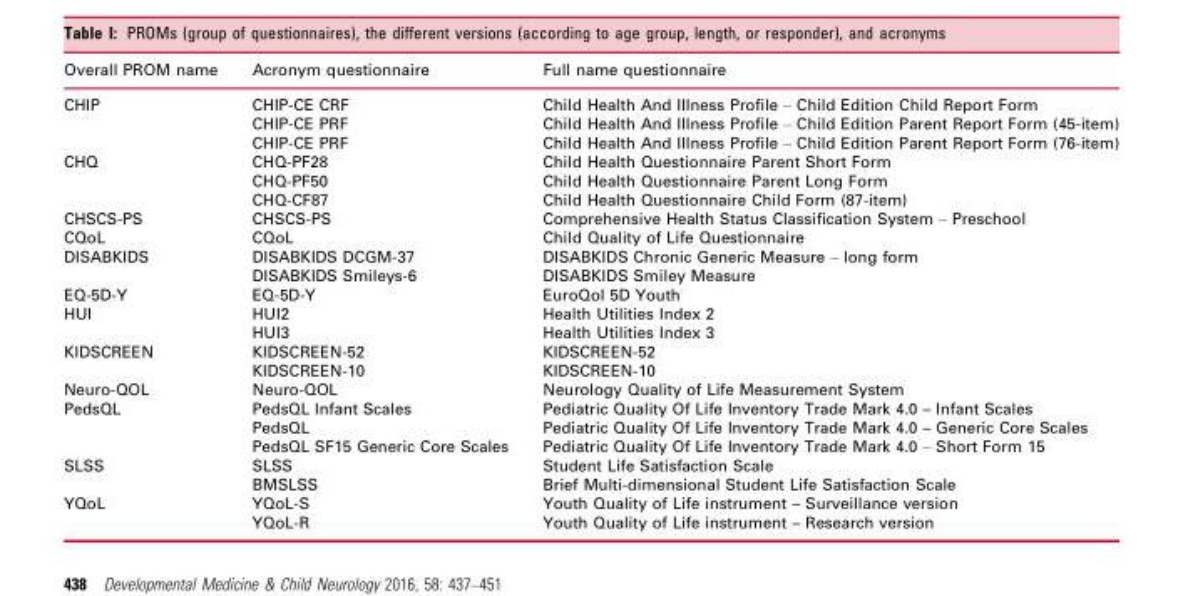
<table><thead><tr><td>Overall PROM name</td><td>Acronym questionnaire</td><td>Full name questionnaire</td></tr></thead><tbody><tr><td rowspan="3">CHIP</td><td>CHIP-CE CRF</td><td>Child Health And Illness Profile – Child Edition Child Report Form</td></tr><tr><td>CHIP-CE PRF</td><td>Child Health And Illness Profile – Child Edition Parent Report Form (45-item)</td></tr><tr><td>CHIP-CE PRF</td><td>Child Health And Illness Profile – Child Edition Parent Report Form (76-item)</td></tr><tr><td rowspan="3">CHQ</td><td>CHQ-PF28</td><td>Child Health Questionnaire Parent Short Form</td></tr><tr><td>CHQ-PF50</td><td>Child Health Questionnaire Parent Long Form</td></tr><tr><td>CHQ-CF87</td><td>Child Health Questionnaire Child Form (87-item)</td></tr><tr><td>CHSCS-PS</td><td>CHSCS-PS</td><td>Comprehensive Health Status Classification System – Preschool</td></tr><tr><td>CQoL</td><td>CQoL</td><td>Child Quality of Life Questionnaire</td></tr><tr><td rowspan="2">DISABKIDS</td><td>DISABKIDS DCGM-37</td><td>DISABKIDS Chronic Generic Measure – long form</td></tr><tr><td>DISABKIDS Smileys-6</td><td>DISABKIDS Smiley Measure</td></tr><tr><td>EQ-5D-Y</td><td>EQ-5D-Y</td><td>EuroQol 5D Youth</td></tr><tr><td rowspan="2">HUI</td><td>HUI2</td><td>Health Utilities Index 2</td></tr><tr><td>HUI3</td><td>Health Utilities Index 3</td></tr><tr><td rowspan="2">KIDSCREEN</td><td>KIDSCREEN-52</td><td>KIDSCREEN-52</td></tr><tr><td>KIDSCREEN-10</td><td>KIDSCREEN-10</td></tr><tr><td>Neuro-QOL</td><td>Neuro-QOL</td><td>Neurology Quality of Life Measurement System</td></tr><tr><td rowspan="3">PedsQL</td><td>PedsQL Infant Scales</td><td>Pediatric Quality Of Life Inventory Trade Mark 4.0 – Infant Scales</td></tr><tr><td>PedsQL</td><td>Pediatric Quality Of Life Inventory Trade Mark 4.0 – Generic Core Scales</td></tr><tr><td>PedsQL SF15 Generic Core Scales</td><td>Pediatric Quality Of Life Inventory Trade Mark 4.0 – Short Form 15</td></tr><tr><td rowspan="2">SLSS</td><td>SLSS</td><td>Student Life Satisfaction Scale</td></tr><tr><td>BMSLSS</td><td>Brief Multi-dimensional Student Life Satisfaction Scale</td></tr><tr><td rowspan="2">YQoL</td><td>YQoL-S</td><td>Youth Quality of Life instrument – Surveillance version</td></tr><tr><td>YQoL-R</td><td>Youth Quality of Life instrument – Research version</td></tr></tbody></table>